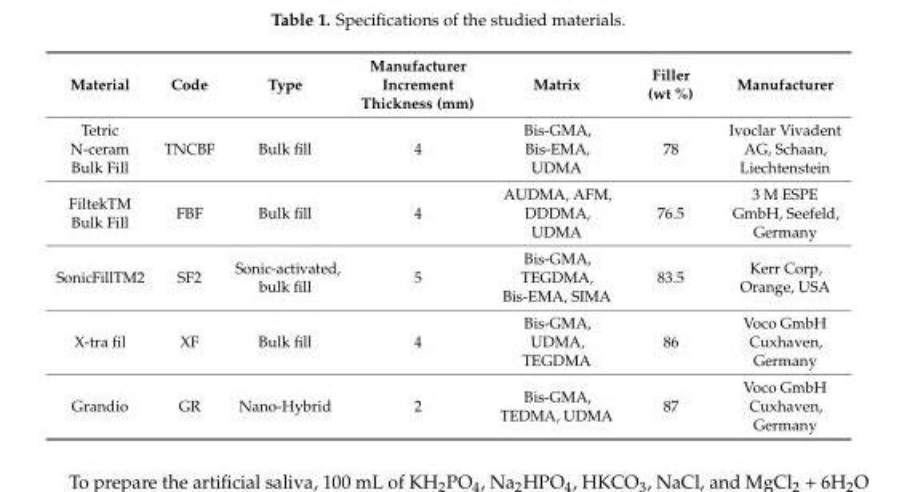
<table><thead><tr><td>Material</td><td>Code</td><td>Type</td><td>Manufacturer Increment Thickness (mm)</td><td>Matrix</td><td>Filler (wt %)</td><td>Manufacturer</td></tr></thead><tbody><tr><td>Tetric N-ceram Bulk Fill</td><td>TNCBF</td><td>Bulk fill</td><td>4</td><td>Bis-GMA, Bis-EMA, UDMA</td><td>78</td><td>Ivoclar Vivadent AG, Schaan, Liechtenstein</td></tr><tr><td>FiltekTM Bulk Fill</td><td>FBF</td><td>Bulk fill</td><td>4</td><td>AUDMA, AFM, DDDMA, UDMA</td><td>76.5</td><td>3 M ESPE GmbH, Seefeld, Germany</td></tr><tr><td>SonicFillTM2</td><td>SF2</td><td>Sonic-activated, bulk fill</td><td>5</td><td>Bis-GMA, TEGDMA, Bis-EMA, SIMA</td><td>83.5</td><td>Kerr Corp, Orange, USA</td></tr><tr><td>X-tra fil</td><td>XF</td><td>Bulk fill</td><td>4</td><td>Bis-GMA, UDMA, TEGDMA</td><td>86</td><td>Voco GmbH Cuxhaven, Germany</td></tr><tr><td>Grandio</td><td>GR</td><td>Nano-Hybrid</td><td>2</td><td>Bis-GMA, TEDMA, UDMA</td><td>87</td><td>Voco GmbH Cuxhaven, Germany</td></tr></tbody></table>